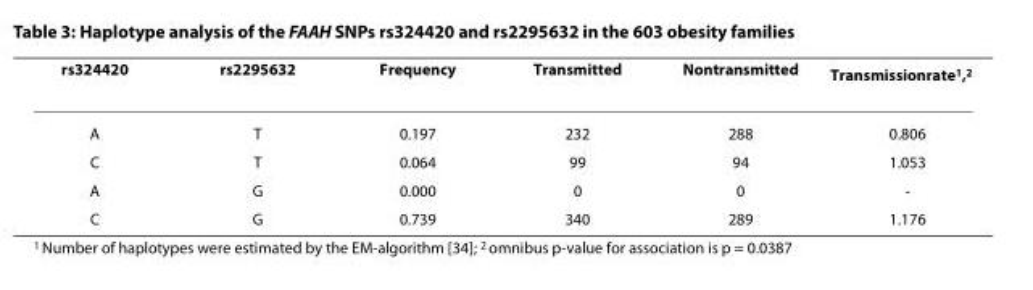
<table><thead><tr><td>rs324420</td><td>rs2295632</td><td>Frequency</td><td>Transmitted</td><td>Nontransmitted</td><td>Transmissionrate<sup>1,2</sup></td></tr></thead><tbody><tr><td>A</td><td>T</td><td>0.197</td><td>232</td><td>288</td><td>0.806</td></tr><tr><td>C</td><td>T</td><td>0.064</td><td>99</td><td>94</td><td>1.053</td></tr><tr><td>A</td><td>G</td><td>0.000</td><td>0</td><td>0</td><td>-</td></tr><tr><td>C</td><td>G</td><td>0.739</td><td>340</td><td>289</td><td>1.176</td></tr></tbody></table>